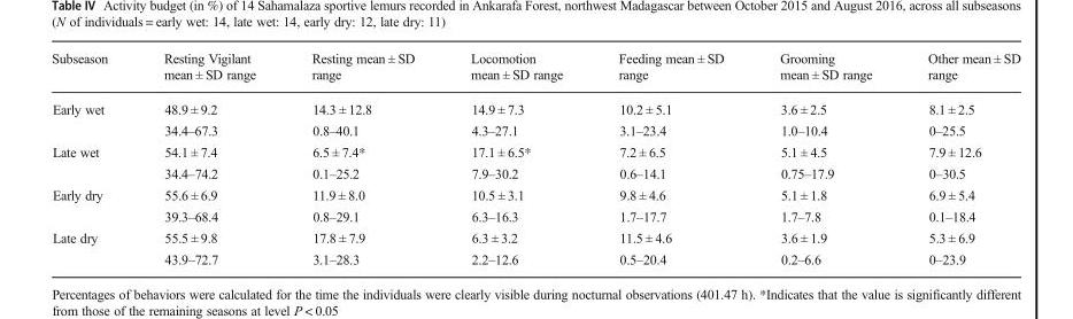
<table><thead><tr><td>Subseason</td><td>Resting Vigilant mean ± SD range</td><td>Resting mean ± SD range</td><td>Locomotion mean ± SD range</td><td>Feeding mean ± SD range</td><td>Grooming mean ± SD range</td><td>Other mean ± SD range</td></tr></thead><tbody><tr><td rowspan="2">Early wet</td><td>48.9 ± 9.2</td><td>14.3 ± 12.8</td><td>14.9 ± 7.3</td><td>10.2 ± 5.1</td><td>3.6 ± 2.5</td><td>8.1 ± 2.5</td></tr><tr><td>34.4–67.3</td><td>0.8–40.1</td><td>4.3–27.1</td><td>3.1–23.4</td><td>1.0–10.4</td><td>0–25.5</td></tr><tr><td rowspan="2">Late wet</td><td>54.1 ± 7.4</td><td>6.5 ± 7.4*</td><td>17.1 ± 6.5*</td><td>7.2 ± 6.5</td><td>5.1 ± 4.5</td><td>7.9 ± 12.6</td></tr><tr><td>34.4–74.2</td><td>0.1–25.2</td><td>7.9–30.2</td><td>0.6–14.1</td><td>0.75–17.9</td><td>0–30.5</td></tr><tr><td rowspan="2">Early dry</td><td>55.6 ± 6.9</td><td>11.9 ± 8.0</td><td>10.5 ± 3.1</td><td>9.8 ± 4.6</td><td>5.1 ± 1.8</td><td>6.9 ± 5.4</td></tr><tr><td>39.3–68.4</td><td>0.8–29.1</td><td>6.3–16.3</td><td>1.7–17.7</td><td>1.7–7.8</td><td>0.1–18.4</td></tr><tr><td rowspan="2">Late dry</td><td>55.5 ± 9.8</td><td>17.8 ± 7.9</td><td>6.3 ± 3.2</td><td>11.5 ± 4.6</td><td>3.6 ± 1.9</td><td>5.3 ± 6.9</td></tr><tr><td>43.9–72.7</td><td>3.1–28.3</td><td>2.2–12.6</td><td>0.5–20.4</td><td>0.2–6.6</td><td>0–23.9</td></tr></tbody></table>